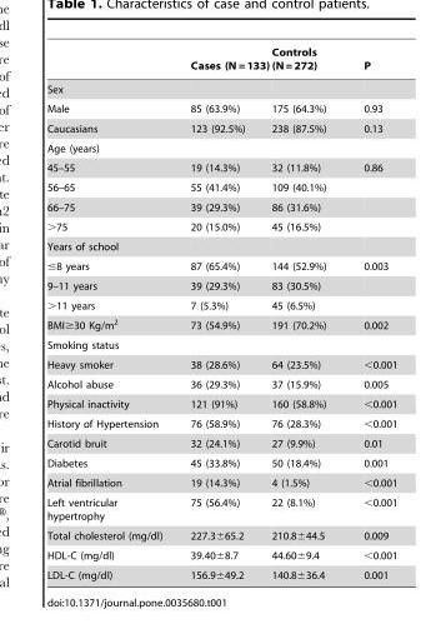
<table><thead><tr><td></td><td>Cases (N = 133)</td><td>Controls (N = 272)</td><td>P</td></tr></thead><tbody><tr><td colspan="4">Sex</td></tr><tr><td>Male</td><td>85 (63.9%)</td><td>175 (64.3%)</td><td>0.93</td></tr><tr><td>Caucasians</td><td>123 (92.5%)</td><td>238 (87.5%)</td><td>0.13</td></tr><tr><td colspan="4">Age (years)</td></tr><tr><td>45–55</td><td>19 (14.3%)</td><td>32 (11.8%)</td><td>0.86</td></tr><tr><td>56–65</td><td>55 (41.4%)</td><td>109 (40.1%)</td><td></td></tr><tr><td>66–75</td><td>39 (29.3%)</td><td>86 (31.6%)</td><td></td></tr><tr><td>&gt;75</td><td>20 (15.0%)</td><td>45 (16.5%)</td><td></td></tr><tr><td colspan="4">Years of school</td></tr><tr><td>≤8 years</td><td>87 (65.4%)</td><td>144 (52.9%)</td><td>0.003</td></tr><tr><td>9–11 years</td><td>39 (29.3%)</td><td>83 (30.5%)</td><td></td></tr><tr><td>&gt;11 years</td><td>7 (5.3%)</td><td>45 (6.5%)</td><td></td></tr><tr><td>BMI≥30 Kg/m<sup>2</sup></td><td>73 (54.9%)</td><td>191 (70.2%)</td><td>0.002</td></tr><tr><td colspan="4">Smoking status</td></tr><tr><td>Heavy smoker</td><td>38 (28.6%)</td><td>64 (23.5%)</td><td>&lt;0.001</td></tr><tr><td>Alcohol abuse</td><td>36 (29.3%)</td><td>37 (15.9%)</td><td>0.005</td></tr><tr><td>Physical inactivity</td><td>121 (91%)</td><td>160 (58.8%)</td><td>&lt;0.001</td></tr><tr><td>History of Hypertension</td><td>76 (58.9%)</td><td>76 (28.3%)</td><td>&lt;0.001</td></tr><tr><td>Carotid bruit</td><td>32 (24.1%)</td><td>27 (9.9%)</td><td>0.01</td></tr><tr><td>Diabetes</td><td>45 (33.8%)</td><td>50 (18.4%)</td><td>0.001</td></tr><tr><td>Atrial fibrillation</td><td>19 (14.3%)</td><td>4 (1.5%)</td><td>&lt;0.001</td></tr><tr><td>Left ventricular hypertrophy</td><td>75 (56.4%)</td><td>22 (8.1%)</td><td>&lt;0.001</td></tr><tr><td>Total cholesterol (mg/dl)</td><td>227.3±65.2</td><td>210.8±44.5</td><td>0.009</td></tr><tr><td>HDL-C (mg/dl)</td><td>39.40±8.7</td><td>44.60±9.4</td><td>&lt;0.001</td></tr><tr><td>LDL-C (mg/dl)</td><td>156.9±49.2</td><td>140.8±36.4</td><td>0.001</td></tr></tbody></table>